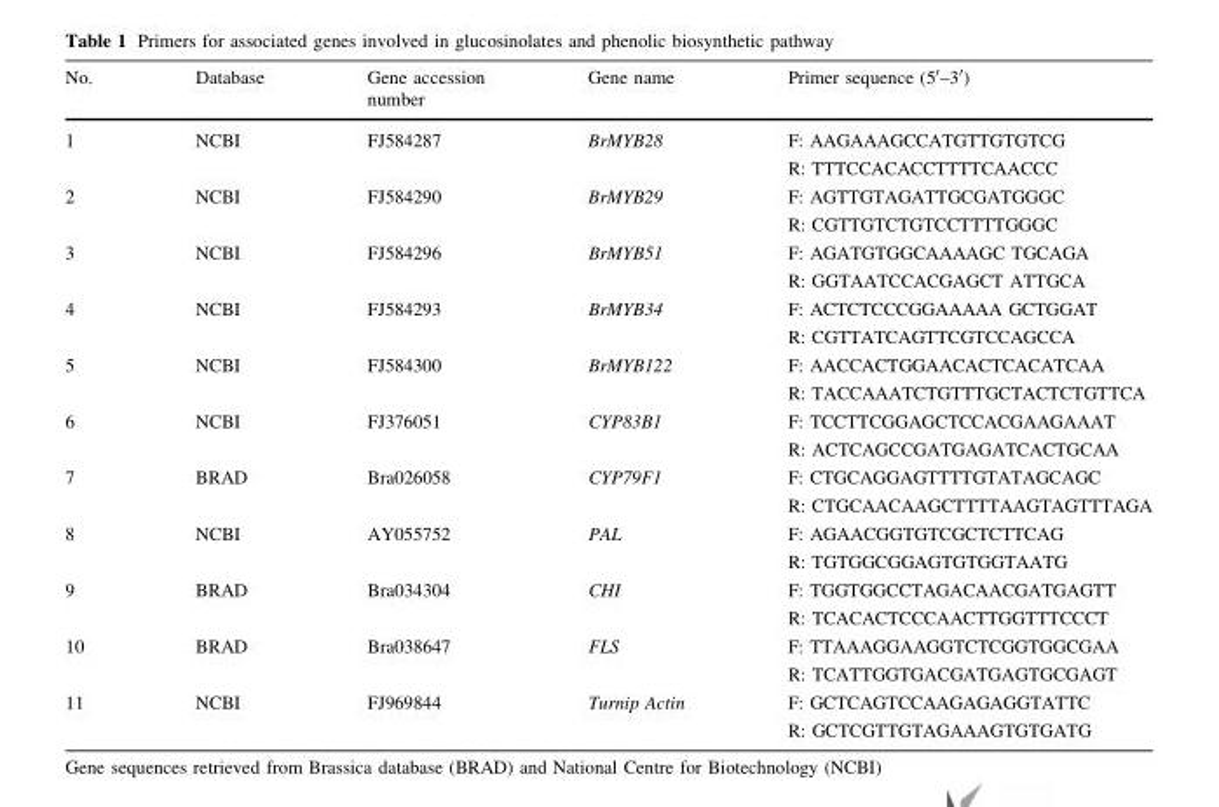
<table><thead><tr><td>No.</td><td>Database</td><td>Gene accession number</td><td>Gene name</td><td>Primer sequence (5′–3′)</td></tr></thead><tbody><tr><td rowspan="2">1</td><td rowspan="2">NCBI</td><td rowspan="2">FJ584287</td><td rowspan="2">BrMYB28</td><td>F: AAGAAAGCCATGTTGTGTCG</td></tr><tr><td>R: TTTCCACACCTTTTCAACCC</td></tr><tr><td rowspan="2">2</td><td rowspan="2">NCBI</td><td rowspan="2">FJ584290</td><td rowspan="2">BrMYB29</td><td>F: AGTTGTAGATTGCGATGGGC</td></tr><tr><td>R: CGTTGTCTGTCCTTTTGGGC</td></tr><tr><td rowspan="2">3</td><td rowspan="2">NCBI</td><td rowspan="2">FJ584296</td><td rowspan="2">BrMYB51</td><td>F: AGATGTGGCAAAAGC TGCAGA</td></tr><tr><td>R: GGTAATCCACGAGCT ATTGCA</td></tr><tr><td rowspan="2">4</td><td rowspan="2">NCBI</td><td rowspan="2">FJ584293</td><td rowspan="2">BrMYB34</td><td>F: ACTCTCCCGGAAAAA GCTGGAT</td></tr><tr><td>R: CGTTATCAGTTCGTCCAGCCA</td></tr><tr><td rowspan="2">5</td><td rowspan="2">NCBI</td><td rowspan="2">FJ584300</td><td rowspan="2">BrMYB122</td><td>F: AACCACTGGAACACTCACATCAA</td></tr><tr><td>R: TACCAAATCTGTTTGCTACTCTGTTCA</td></tr><tr><td rowspan="2">6</td><td rowspan="2">NCBI</td><td rowspan="2">FJ376051</td><td rowspan="2">CYP83B1</td><td>F: TCCTTCGGAGCTCCACGAAGAAAT</td></tr><tr><td>R: ACTCAGCCGATGAGATCACTGCAA</td></tr><tr><td rowspan="2">7</td><td rowspan="2">BRAD</td><td rowspan="2">Bra026058</td><td rowspan="2">CYP79F1</td><td>F: CTGCAGGAGTTTTGTATAGCAGC</td></tr><tr><td>R: CTGCAACAAGCTTTTAAGTAGTTTAGA</td></tr><tr><td rowspan="2">8</td><td rowspan="2">NCBI</td><td rowspan="2">AY055752</td><td rowspan="2">PAL</td><td>F: AGAACGGTGTCGCTCTTCAG</td></tr><tr><td>R: TGTGGCGGAGTGTGGTAATG</td></tr><tr><td rowspan="2">9</td><td rowspan="2">BRAD</td><td rowspan="2">Bra034304</td><td rowspan="2">CHI</td><td>F: TGGTGGCCTAGACAACGATGAGTT</td></tr><tr><td>R: TCACACTCCCAACTTGGTTTCCCT</td></tr><tr><td rowspan="2">10</td><td rowspan="2">BRAD</td><td rowspan="2">Bra038647</td><td rowspan="2">FLS</td><td>F: TTAAAGGAAGGTCTCGGTGGCGAA</td></tr><tr><td>R: TCATTGGTGACGATGAGTGCGAGT</td></tr><tr><td rowspan="2">11</td><td rowspan="2">NCBI</td><td rowspan="2">FJ969844</td><td rowspan="2">Turnip Actin</td><td>F: GCTCAGTCCAAGAGAGGTATTC</td></tr><tr><td>R: GCTCGTTGTAGAAAGTGTGATG</td></tr></tbody></table>